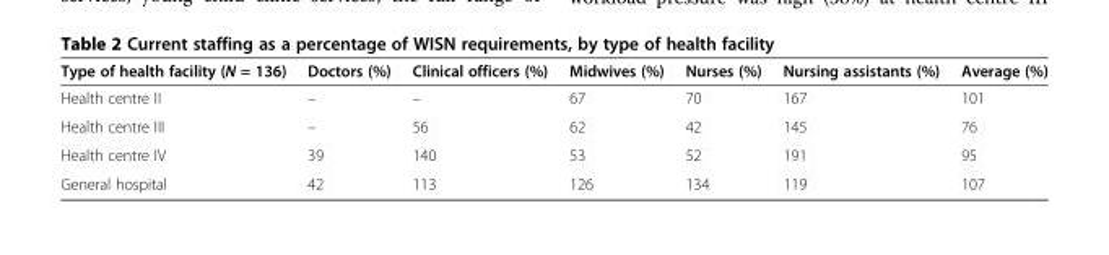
<table><thead><tr><td>Type of health facility (N = 136)</td><td>Doctors (%)</td><td>Clinical officers (%)</td><td>Midwives (%)</td><td>Nurses (%)</td><td>Nursing assistants (%)</td><td>Average (%)</td></tr></thead><tbody><tr><td>Health centre II</td><td>–</td><td>–</td><td>67</td><td>70</td><td>167</td><td>101</td></tr><tr><td>Health centre III</td><td>–</td><td>56</td><td>62</td><td>42</td><td>145</td><td>76</td></tr><tr><td>Health centre IV</td><td>39</td><td>140</td><td>53</td><td>52</td><td>191</td><td>95</td></tr><tr><td>General hospital</td><td>42</td><td>113</td><td>126</td><td>134</td><td>119</td><td>107</td></tr></tbody></table>